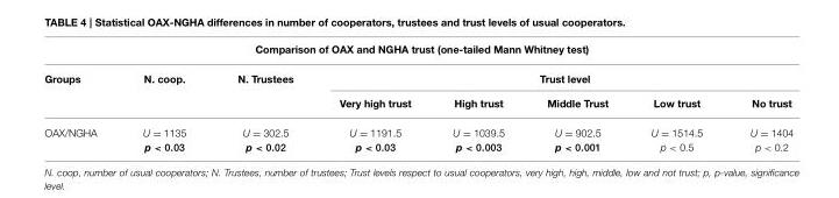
<table><thead><tr><td colspan="8">Comparison of OAX and NGHA trust (one-tailed Mann Whitney test)</td></tr><tr><td rowspan="2">Groups</td><td rowspan="2">N. coop.</td><td rowspan="2">N. Trustees</td><td colspan="5">Trust level</td></tr><tr><td>Very high trust</td><td>High trust</td><td>Middle Trust</td><td>Low trust</td><td>No trust</td></tr></thead><tbody><tr><td>OAX/NGHA</td><td>U = 1135 p &lt; 0.03</td><td>U = 302.5 p &lt; 0.02</td><td>U = 1191.5 p &lt; 0.03</td><td>U = 1039.5 p &lt; 0.003</td><td>U = 902.5 p &lt; 0.001</td><td>U = 1514.5 p &lt; 0.5</td><td>U = 1404 p &lt; 0.2</td></tr></tbody></table>